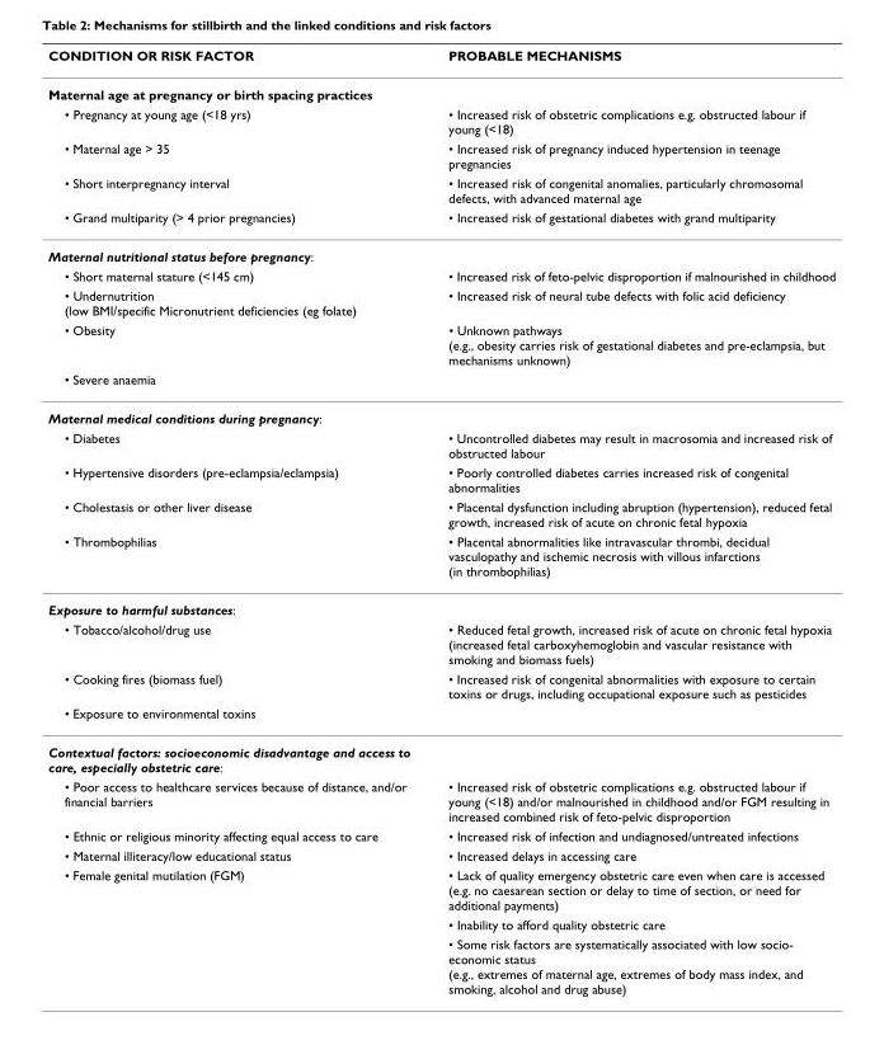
<table><thead><tr><td>CONDITION OR RISK FACTOR</td><td>PROBABLE MECHANISMS</td></tr></thead><tbody><tr><td colspan="2">Maternal age at pregnancy or birth spacing practices</td></tr><tr><td>• Pregnancy at young age (&lt;18 yrs)</td><td>• Increased risk of obstetric complications e.g. obstructed labour if young (&lt;18)</td></tr><tr><td>• Maternal age &gt; 35</td><td>• Increased risk of pregnancy induced hypertension in teenage pregnancies</td></tr><tr><td>• Short interpregnancy interval</td><td>• Increased risk of congenital anomalies, particularly chromosomal defects, with advanced maternal age</td></tr><tr><td>• Grand multiparity (&gt; 4 prior pregnancies)</td><td>• Increased risk of gestational diabetes with grand multiparity</td></tr><tr><td colspan="2">Maternal nutritional status before pregnancy:</td></tr><tr><td>• Short maternal stature (&lt;145 cm)</td><td>• Increased risk of feto-pelvic disproportion if malnourished in childhood</td></tr><tr><td>• Undernutrition (low BMI/specific Micronutrient deficiencies (eg folate)</td><td>• Increased risk of neural tube defects with folic acid deficiency</td></tr><tr><td>• Obesity</td><td>• Unknown pathways (e.g., obesity carries risk of gestational diabetes and pre-eclampsia, but mechanisms unknown)</td></tr><tr><td colspan="2">• Severe anaemia</td></tr><tr><td colspan="2">Maternal medical conditions during pregnancy:</td></tr><tr><td>• Diabetes</td><td>• Uncontrolled diabetes may result in macrosomia and increased risk of obstructed labour</td></tr><tr><td>• Hypertensive disorders (pre-eclampsia/eclampsia)</td><td>• Poorly controlled diabetes carries increased risk of congenital abnormalities</td></tr><tr><td>• Cholestasis or other liver disease</td><td>• Placental dysfunction including abruption (hypertension), reduced fetal growth, increased risk of acute on chronic fetal hypoxia</td></tr><tr><td>• Thrombophilias</td><td>• Placental abnormalities like intravascular thrombi, decidual vasculopathy and ischemic necrosis with villous infarctions (in thrombophilias)</td></tr><tr><td colspan="2">Exposure to harmful substances:</td></tr><tr><td>• Tobacco/alcohol/drug use</td><td>• Reduced fetal growth, increased risk of acute on chronic fetal hypoxia (increased fetal carboxyhemoglobin and vascular resistance with smoking and biomass fuels)</td></tr><tr><td>• Cooking fires (biomass fuel)</td><td>• Increased risk of congenital abnormalities with exposure to certain toxins or drugs, including occupational exposure such as pesticides</td></tr><tr><td colspan="2">• Exposure to environmental toxins</td></tr><tr><td colspan="2">Contextual factors: socioeconomic disadvantage and access to care, especially obstetric care:</td></tr><tr><td>• Poor access to healthcare services because of distance, and/or financial barriers</td><td>• Increased risk of obstetric complications e.g. obstructed labour if young (&lt;18) and/or malnourished in childhood and/or FGM resulting in increased combined risk of feto-pelvic disproportion</td></tr><tr><td>• Ethnic or religious minority affecting equal access to care</td><td>• Increased risk of infection and undiagnosed/untreated infections</td></tr><tr><td>• Maternal illiteracy/low educational status</td><td>• Increased delays in accessing care</td></tr><tr><td rowspan="3">• Female genital mutilation (FGM)</td><td>• Lack of quality emergency obstetric care even when care is accessed (e.g. no caesarean section or delay to time of section, or need for additional payments)</td></tr><tr><td>• Inability to afford quality obstetric care</td></tr><tr><td>• Some risk factors are systematically associated with low socio- economic status (e.g., extremes of maternal age, extremes of body mass index, and smoking, alcohol and drug abuse)</td></tr></tbody></table>